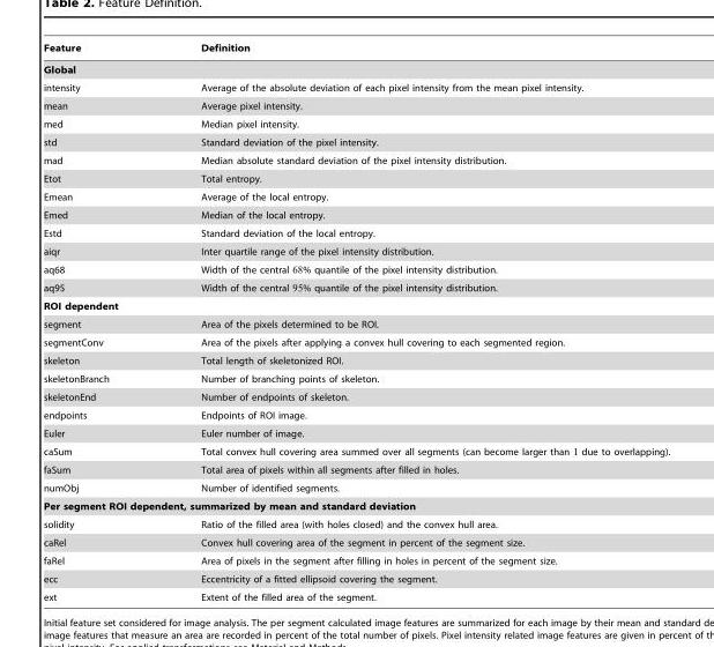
<table><thead><tr><td>Feature</td><td>Definition</td></tr></thead><tbody><tr><td colspan="2">Global</td></tr><tr><td>intensity</td><td>Average of the absolute deviation of each pixel intensity from the mean pixel intensity.</td></tr><tr><td>mean</td><td>Average pixel intensity.</td></tr><tr><td>med</td><td>Median pixel intensity.</td></tr><tr><td>std</td><td>Standard deviation of the pixel intensity.</td></tr><tr><td>mad</td><td>Median absolute standard deviation of the pixel intensity distribution.</td></tr><tr><td>Etot</td><td>Total entropy.</td></tr><tr><td>Emean</td><td>Average of the local entropy.</td></tr><tr><td>Emed</td><td>Median of the local entropy.</td></tr><tr><td>Estd</td><td>Standard deviation of the local entropy.</td></tr><tr><td>aiqr</td><td>Inter quartile range of the pixel intensity distribution.</td></tr><tr><td>aq68</td><td>Width of the central 68% quantile of the pixel intensity distribution.</td></tr><tr><td>aq95</td><td>Width of the central 95% quantile of the pixel intensity distribution.</td></tr><tr><td colspan="2">ROI dependent</td></tr><tr><td>segment</td><td>Area of the pixels determined to be ROI.</td></tr><tr><td>segmentConv</td><td>Area of the pixels after applying a convex hull covering to each segmented region.</td></tr><tr><td>skeleton</td><td>Total length of skeletonized ROI.</td></tr><tr><td>skeletonBranch</td><td>Number of branching points of skeleton.</td></tr><tr><td>skeletonEnd</td><td>Number of endpoints of skeleton.</td></tr><tr><td>endpoints</td><td>Endpoints of ROI image.</td></tr><tr><td>Euler</td><td>Euler number of image.</td></tr><tr><td>caSum</td><td>Total convex hull covering area summed over all segments (can become larger than 1 due to overlapping).</td></tr><tr><td>faSum</td><td>Total area of pixels within all segments after filled in holes.</td></tr><tr><td>numObj</td><td>Number of identified segments.</td></tr><tr><td colspan="2">Per segment ROI dependent, summarized by mean and standard deviation</td></tr><tr><td>solidity</td><td>Ratio of the filled area (with holes closed) and the convex hull area.</td></tr><tr><td>caRel</td><td>Convex hull covering area of the segment in percent of the segment size.</td></tr><tr><td>faRel</td><td>Area of pixels in the segment after filling in holes in percent of the segment size.</td></tr><tr><td>ecc</td><td>Eccentricity of a fitted ellipsoid covering the segment.</td></tr><tr><td>ext</td><td>Extent of the filled area of the segment.</td></tr></tbody></table>